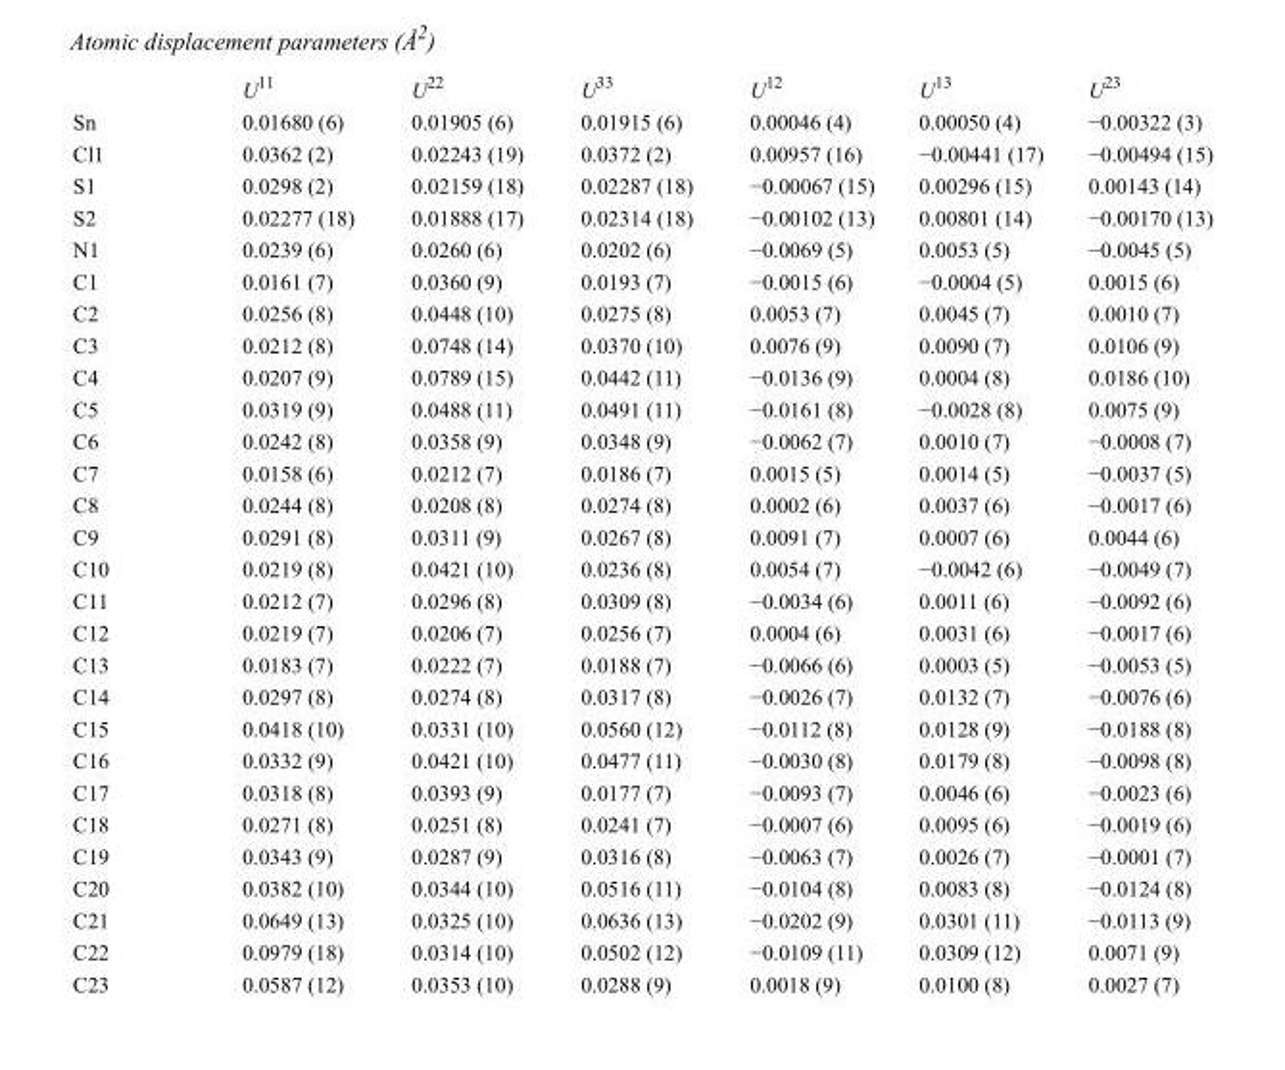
<table><thead><tr><td></td><td>U<sup>11</sup></td><td>U<sup>22</sup></td><td>U<sup>33</sup></td><td>U<sup>12</sup></td><td>U<sup>13</sup></td><td>U<sup>23</sup></td></tr></thead><tbody><tr><td>Sn</td><td>0.01680 (6)</td><td>0.01905 (6)</td><td>0.01915 (6)</td><td>0.00046 (4)</td><td>0.00050 (4)</td><td>−0.00322 (3)</td></tr><tr><td>Cl1</td><td>0.0362 (2)</td><td>0.02243 (19)</td><td>0.0372 (2)</td><td>0.00957 (16)</td><td>−0.00441 (17)</td><td>−0.00494 (15)</td></tr><tr><td>S1</td><td>0.0298 (2)</td><td>0.02159 (18)</td><td>0.02287 (18)</td><td>−0.00067 (15)</td><td>0.00296 (15)</td><td>0.00143 (14)</td></tr><tr><td>S2</td><td>0.02277 (18)</td><td>0.01888 (17)</td><td>0.02314 (18)</td><td>−0.00102 (13)</td><td>0.00801 (14)</td><td>−0.00170 (13)</td></tr><tr><td>N1</td><td>0.0239 (6)</td><td>0.0260 (6)</td><td>0.0202 (6)</td><td>−0.0069 (5)</td><td>0.0053 (5)</td><td>−0.0045 (5)</td></tr><tr><td>C1</td><td>0.0161 (7)</td><td>0.0360 (9)</td><td>0.0193 (7)</td><td>−0.0015 (6)</td><td>−0.0004 (5)</td><td>0.0015 (6)</td></tr><tr><td>C2</td><td>0.0256 (8)</td><td>0.0448 (10)</td><td>0.0275 (8)</td><td>0.0053 (7)</td><td>0.0045 (7)</td><td>0.0010 (7)</td></tr><tr><td>C3</td><td>0.0212 (8)</td><td>0.0748 (14)</td><td>0.0370 (10)</td><td>0.0076 (9)</td><td>0.0090 (7)</td><td>0.0106 (9)</td></tr><tr><td>C4</td><td>0.0207 (9)</td><td>0.0789 (15)</td><td>0.0442 (11)</td><td>−0.0136 (9)</td><td>0.0004 (8)</td><td>0.0186 (10)</td></tr><tr><td>C5</td><td>0.0319 (9)</td><td>0.0488 (11)</td><td>0.0491 (11)</td><td>−0.0161 (8)</td><td>−0.0028 (8)</td><td>0.0075 (9)</td></tr><tr><td>C6</td><td>0.0242 (8)</td><td>0.0358 (9)</td><td>0.0348 (9)</td><td>−0.0062 (7)</td><td>0.0010 (7)</td><td>−0.0008 (7)</td></tr><tr><td>C7</td><td>0.0158 (6)</td><td>0.0212 (7)</td><td>0.0186 (7)</td><td>0.0015 (5)</td><td>0.0014 (5)</td><td>−0.0037 (5)</td></tr><tr><td>C8</td><td>0.0244 (8)</td><td>0.0208 (8)</td><td>0.0274 (8)</td><td>0.0002 (6)</td><td>0.0037 (6)</td><td>−0.0017 (6)</td></tr><tr><td>C9</td><td>0.0291 (8)</td><td>0.0311 (9)</td><td>0.0267 (8)</td><td>0.0091 (7)</td><td>0.0007 (6)</td><td>0.0044 (6)</td></tr><tr><td>C10</td><td>0.0219 (8)</td><td>0.0421 (10)</td><td>0.0236 (8)</td><td>0.0054 (7)</td><td>−0.0042 (6)</td><td>−0.0049 (7)</td></tr><tr><td>C11</td><td>0.0212 (7)</td><td>0.0296 (8)</td><td>0.0309 (8)</td><td>−0.0034 (6)</td><td>0.0011 (6)</td><td>−0.0092 (6)</td></tr><tr><td>C12</td><td>0.0219 (7)</td><td>0.0206 (7)</td><td>0.0256 (7)</td><td>0.0004 (6)</td><td>0.0031 (6)</td><td>−0.0017 (6)</td></tr><tr><td>C13</td><td>0.0183 (7)</td><td>0.0222 (7)</td><td>0.0188 (7)</td><td>−0.0066 (6)</td><td>0.0003 (5)</td><td>−0.0053 (5)</td></tr><tr><td>C14</td><td>0.0297 (8)</td><td>0.0274 (8)</td><td>0.0317 (8)</td><td>−0.0026 (7)</td><td>0.0132 (7)</td><td>−0.0076 (6)</td></tr><tr><td>C15</td><td>0.0418 (10)</td><td>0.0331 (10)</td><td>0.0560 (12)</td><td>−0.0112 (8)</td><td>0.0128 (9)</td><td>−0.0188 (8)</td></tr><tr><td>C16</td><td>0.0332 (9)</td><td>0.0421 (10)</td><td>0.0477 (11)</td><td>−0.0030 (8)</td><td>0.0179 (8)</td><td>−0.0098 (8)</td></tr><tr><td>C17</td><td>0.0318 (8)</td><td>0.0393 (9)</td><td>0.0177 (7)</td><td>−0.0093 (7)</td><td>0.0046 (6)</td><td>−0.0023 (6)</td></tr><tr><td>C18</td><td>0.0271 (8)</td><td>0.0251 (8)</td><td>0.0241 (7)</td><td>−0.0007 (6)</td><td>0.0095 (6)</td><td>−0.0019 (6)</td></tr><tr><td>C19</td><td>0.0343 (9)</td><td>0.0287 (9)</td><td>0.0316 (8)</td><td>−0.0063 (7)</td><td>0.0026 (7)</td><td>−0.0001 (7)</td></tr><tr><td>C20</td><td>0.0382 (10)</td><td>0.0344 (10)</td><td>0.0516 (11)</td><td>−0.0104 (8)</td><td>0.0083 (8)</td><td>−0.0124 (8)</td></tr><tr><td>C21</td><td>0.0649 (13)</td><td>0.0325 (10)</td><td>0.0636 (13)</td><td>−0.0202 (9)</td><td>0.0301 (11)</td><td>−0.0113 (9)</td></tr><tr><td>C22</td><td>0.0979 (18)</td><td>0.0314 (10)</td><td>0.0502 (12)</td><td>−0.0109 (11)</td><td>0.0309 (12)</td><td>0.0071 (9)</td></tr><tr><td>C23</td><td>0.0587 (12)</td><td>0.0353 (10)</td><td>0.0288 (9)</td><td>0.0018 (9)</td><td>0.0100 (8)</td><td>0.0027 (7)</td></tr></tbody></table>